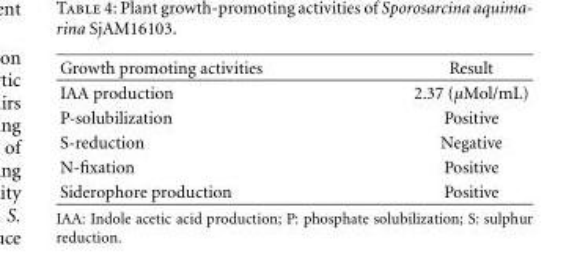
<table><thead><tr><td>Growth promoting activities</td><td>Result</td></tr></thead><tbody><tr><td>IAA production</td><td>2.37 (μMol/mL)</td></tr><tr><td>P-solubilization</td><td>Positive</td></tr><tr><td>S-reduction</td><td>Negative</td></tr><tr><td>N-fixation</td><td>Positive</td></tr><tr><td>Siderophore production</td><td>Positive</td></tr></tbody></table>